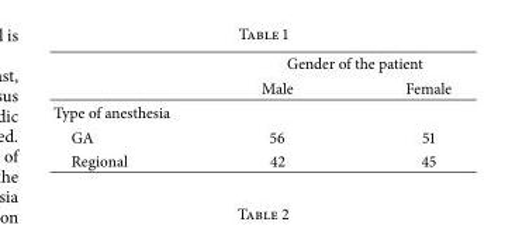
<table><thead><tr><td rowspan="2"></td><td colspan="2">Gender of the patient</td></tr><tr><td>Male</td><td>Female</td></tr></thead><tbody><tr><td colspan="3">Type of anesthesia</td></tr><tr><td>GA</td><td>56</td><td>51</td></tr><tr><td>Regional</td><td>42</td><td>45</td></tr></tbody></table>